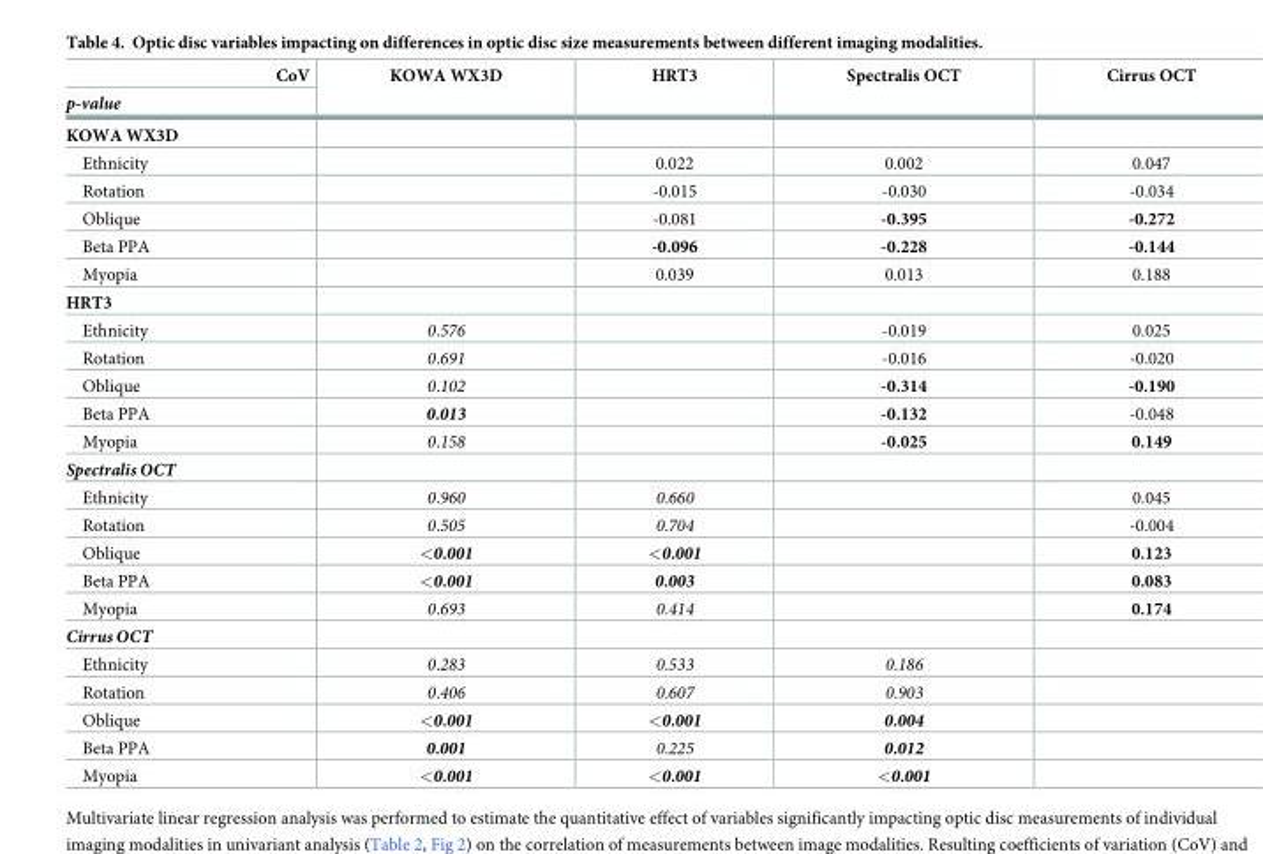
<table><thead><tr><td rowspan="2">CoV p-value</td><td rowspan="2">KOWA WX3D</td><td rowspan="2">HRT3</td><td rowspan="2">Spectralis OCT</td><td rowspan="2">Cirrus OCT</td></tr><tr></tr></thead><tbody><tr><td colspan="5">KOWA WX3D</td></tr><tr><td>Ethnicity</td><td></td><td>0.022</td><td>0.002</td><td>0.047</td></tr><tr><td>Rotation</td><td></td><td>-0.015</td><td>-0.030</td><td>-0.034</td></tr><tr><td>Oblique</td><td></td><td>-0.081</td><td>-0.395</td><td>-0.272</td></tr><tr><td>Beta PPA</td><td></td><td>-0.096</td><td>-0.228</td><td>-0.144</td></tr><tr><td>Myopia</td><td></td><td>0.039</td><td>0.013</td><td>0.188</td></tr><tr><td colspan="5">HRT3</td></tr><tr><td>Ethnicity</td><td>0.576</td><td></td><td>-0.019</td><td>0.025</td></tr><tr><td>Rotation</td><td>0.691</td><td></td><td>-0.016</td><td>-0.020</td></tr><tr><td>Oblique</td><td>0.102</td><td></td><td>-0.314</td><td>-0.190</td></tr><tr><td>Beta PPA</td><td>0.013</td><td></td><td>-0.132</td><td>-0.048</td></tr><tr><td>Myopia</td><td>0.158</td><td></td><td>-0.025</td><td>0.149</td></tr><tr><td colspan="5">Spectralis OCT</td></tr><tr><td>Ethnicity</td><td>0.960</td><td>0.660</td><td></td><td>0.045</td></tr><tr><td>Rotation</td><td>0.505</td><td>0.704</td><td></td><td>-0.004</td></tr><tr><td>Oblique</td><td>&lt;0.001</td><td>&lt;0.001</td><td></td><td>0.123</td></tr><tr><td>Beta PPA</td><td>&lt;0.001</td><td>0.003</td><td></td><td>0.083</td></tr><tr><td>Myopia</td><td>0.693</td><td>0.414</td><td></td><td>0.174</td></tr><tr><td colspan="5">Cirrus OCT</td></tr><tr><td>Ethnicity</td><td>0.283</td><td>0.533</td><td>0.186</td><td></td></tr><tr><td>Rotation</td><td>0.406</td><td>0.607</td><td>0.903</td><td></td></tr><tr><td>Oblique</td><td>&lt;0.001</td><td>&lt;0.001</td><td>0.004</td><td></td></tr><tr><td>Beta PPA</td><td>0.001</td><td>0.225</td><td>0.012</td><td></td></tr><tr><td>Myopia</td><td>&lt;0.001</td><td>&lt;0.001</td><td>&lt;0.001</td><td></td></tr></tbody></table>